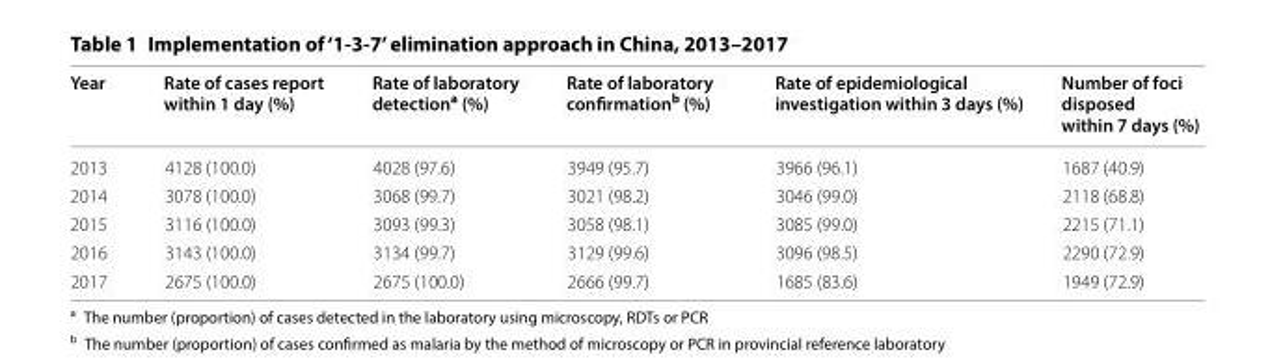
<table><thead><tr><td>Year</td><td>Rate of cases report within 1 day (%)</td><td>Rate of laboratory detection<sup>a</sup> (%)</td><td>Rate of laboratory confirmation<sup>b</sup> (%)</td><td>Rate of epidemiological investigation within 3 days (%)</td><td>Number of foci disposed within 7 days (%)</td></tr></thead><tbody><tr><td>2013</td><td>4128 (100.0)</td><td>4028 (97.6)</td><td>3949 (95.7)</td><td>3966 (96.1)</td><td>1687 (40.9)</td></tr><tr><td>2014</td><td>3078 (100.0)</td><td>3068 (99.7)</td><td>3021 (98.2)</td><td>3046 (99.0)</td><td>2118 (68.8)</td></tr><tr><td>2015</td><td>3116 (100.0)</td><td>3093 (99.3)</td><td>3058 (98.1)</td><td>3085 (99.0)</td><td>2215 (71.1)</td></tr><tr><td>2016</td><td>3143 (100.0)</td><td>3134 (99.7)</td><td>3129 (99.6)</td><td>3096 (98.5)</td><td>2290 (72.9)</td></tr><tr><td>2017</td><td>2675 (100.0)</td><td>2675 (100.0)</td><td>2666 (99.7)</td><td>1685 (83.6)</td><td>1949 (72.9)</td></tr></tbody></table>